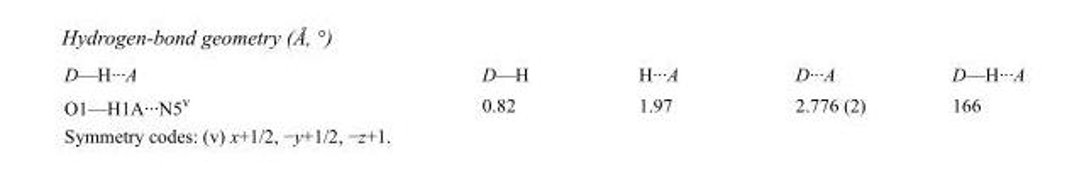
<table><tbody><tr><td>D—H···A</td><td>D—H</td><td>H···A</td><td>D···A</td><td>D—H···A</td></tr><tr><td>O1—H1A···N5<sup>v</sup></td><td>0.82</td><td>1.97</td><td>2.776 (2)</td><td>166</td></tr></tbody></table>